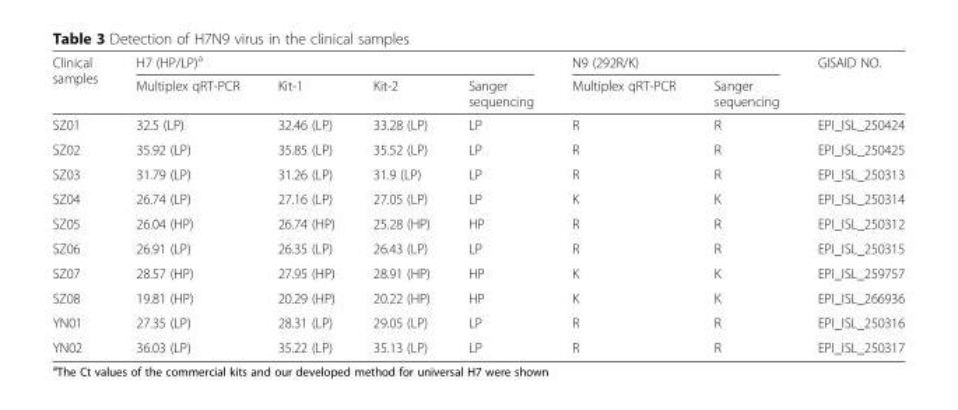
<table><thead><tr><td rowspan="2">Clinical samples</td><td colspan="4">H7 (HP/LP)<sup>a</sup></td><td colspan="2">N9 (292R/K)</td><td rowspan="2">GISAID NO.</td></tr><tr><td>Multiplex qRT-PCR</td><td>Kit-1</td><td>Kit-2</td><td>Sanger sequencing</td><td>Multiplex qRT-PCR</td><td>Sanger sequencing</td></tr></thead><tbody><tr><td>SZ01</td><td>32.5 (LP)</td><td>32.46 (LP)</td><td>33.28 (LP)</td><td>LP</td><td>R</td><td>R</td><td>EPI_ISL_250424</td></tr><tr><td>SZ02</td><td>35.92 (LP)</td><td>35.85 (LP)</td><td>35.52 (LP)</td><td>LP</td><td>R</td><td>R</td><td>EPI_ISL_250425</td></tr><tr><td>SZ03</td><td>31.79 (LP)</td><td>31.26 (LP)</td><td>31.9 (LP)</td><td>LP</td><td>R</td><td>R</td><td>EPI_ISL_250313</td></tr><tr><td>SZ04</td><td>26.74 (LP)</td><td>27.16 (LP)</td><td>27.05 (LP)</td><td>LP</td><td>K</td><td>K</td><td>EPI_ISL_250314</td></tr><tr><td>SZ05</td><td>26.04 (HP)</td><td>26.74 (HP)</td><td>25.28 (HP)</td><td>HP</td><td>R</td><td>R</td><td>EPI_ISL_250312</td></tr><tr><td>SZ06</td><td>26.91 (LP)</td><td>26.35 (LP)</td><td>26.43 (LP)</td><td>LP</td><td>R</td><td>R</td><td>EPI_ISL_250315</td></tr><tr><td>SZ07</td><td>28.57 (HP)</td><td>27.95 (HP)</td><td>28.91 (HP)</td><td>HP</td><td>K</td><td>K</td><td>EPI_ISL_259757</td></tr><tr><td>SZ08</td><td>19.81 (HP)</td><td>20.29 (HP)</td><td>20.22 (HP)</td><td>HP</td><td>K</td><td>K</td><td>EPI_ISL_266936</td></tr><tr><td>YN01</td><td>27.35 (LP)</td><td>28.31 (LP)</td><td>29.05 (LP)</td><td>LP</td><td>R</td><td>R</td><td>EPI_ISL_250316</td></tr><tr><td>YN02</td><td>36.03 (LP)</td><td>35.22 (LP)</td><td>35.13 (LP)</td><td>LP</td><td>R</td><td>R</td><td>EPI_ISL_250317</td></tr></tbody></table>